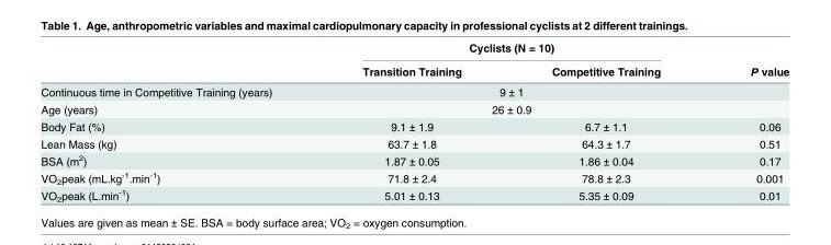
<table><thead><tr><td rowspan="2"></td><td colspan="2">Cyclists (N = 10)</td><td rowspan="2">P value</td></tr><tr><td>Transition Training</td><td>Competitive Training</td></tr></thead><tbody><tr><td>Continuous time in Competitive Training (years)</td><td colspan="2">9 ± 1</td><td></td></tr><tr><td>Age (years)</td><td colspan="2">26 ± 0.9</td><td></td></tr><tr><td>Body Fat (%)</td><td>9.1 ± 1.9</td><td>6.7 ± 1.1</td><td>0.06</td></tr><tr><td>Lean Mass (kg)</td><td>63.7 ± 1.8</td><td>64.3 ± 1.7</td><td>0.51</td></tr><tr><td>BSA (m<sup>2</sup>)</td><td>1.87 ± 0.05</td><td>1.86 ± 0.04</td><td>0.17</td></tr><tr><td>VO<sub>2</sub>peak (mL.kg<sup>-1</sup>.min<sup>-1</sup>)</td><td>71.8 ± 2.4</td><td>78.8 ± 2.3</td><td>0.001</td></tr><tr><td>VO<sub>2</sub>peak (L.min<sup>-1</sup>)</td><td>5.01 ± 0.13</td><td>5.35 ± 0.09</td><td>0.01</td></tr></tbody></table>